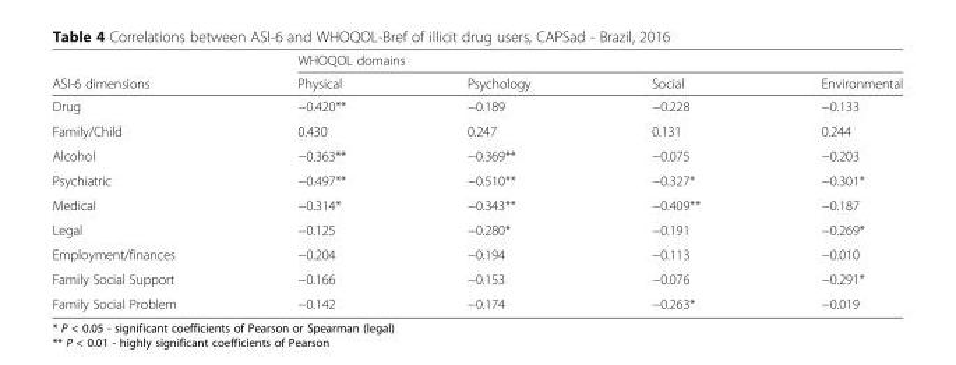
<table><thead><tr><td rowspan="2">ASI-6 dimensions</td><td colspan="4">WHOQOL domains</td></tr><tr><td>Physical</td><td>Psychology</td><td>Social</td><td>Environmental</td></tr></thead><tbody><tr><td>Drug</td><td>−0.420**</td><td>−0.189</td><td>−0.228</td><td>−0.133</td></tr><tr><td>Family/Child</td><td>0.430</td><td>0.247</td><td>0.131</td><td>0.244</td></tr><tr><td>Alcohol</td><td>−0.363**</td><td>−0.369**</td><td>−0.075</td><td>−0.203</td></tr><tr><td>Psychiatric</td><td>−0.497**</td><td>−0.510**</td><td>−0.327*</td><td>−0.301*</td></tr><tr><td>Medical</td><td>−0.314*</td><td>−0.343**</td><td>−0.409**</td><td>−0.187</td></tr><tr><td>Legal</td><td>−0.125</td><td>−0.280*</td><td>−0.191</td><td>−0.269*</td></tr><tr><td>Employment/finances</td><td>−0.204</td><td>−0.194</td><td>−0.113</td><td>−0.010</td></tr><tr><td>Family Social Support</td><td>−0.166</td><td>−0.153</td><td>−0.076</td><td>−0.291*</td></tr><tr><td>Family Social Problem</td><td>−0.142</td><td>−0.174</td><td>−0.263*</td><td>−0.019</td></tr></tbody></table>